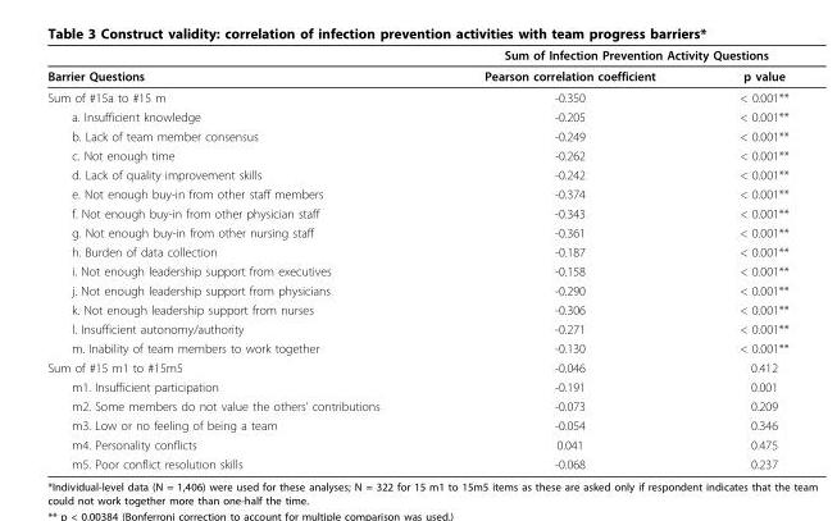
<table><thead><tr><td rowspan="2">Barrier Questions</td><td colspan="2">Sum of Infection Prevention Activity Questions</td></tr><tr><td>Pearson correlation coefficient</td><td>p value</td></tr></thead><tbody><tr><td>Sum of #15a to #15 m</td><td>-0.350</td><td>&lt; 0.001**</td></tr><tr><td>a. Insufficient knowledge</td><td>-0.205</td><td>&lt; 0.001**</td></tr><tr><td>b. Lack of team member consensus</td><td>-0.249</td><td>&lt; 0.001**</td></tr><tr><td>c. Not enough time</td><td>-0.262</td><td>&lt; 0.001**</td></tr><tr><td>d. Lack of quality improvement skills</td><td>-0.242</td><td>&lt; 0.001**</td></tr><tr><td>e. Not enough buy-in from other staff members</td><td>-0.374</td><td>&lt; 0.001**</td></tr><tr><td>f. Not enough buy-in from other physician staff</td><td>-0.343</td><td>&lt; 0.001**</td></tr><tr><td>g. Not enough buy-in from other nursing staff</td><td>-0.361</td><td>&lt; 0.001**</td></tr><tr><td>h. Burden of data collection</td><td>-0.187</td><td>&lt; 0.001**</td></tr><tr><td>i. Not enough leadership support from executives</td><td>-0.158</td><td>&lt; 0.001**</td></tr><tr><td>j. Not enough leadership support from physicians</td><td>-0.290</td><td>&lt; 0.001**</td></tr><tr><td>k. Not enough leadership support from nurses</td><td>-0.306</td><td>&lt; 0.001**</td></tr><tr><td>l. Insufficient autonomy/authority</td><td>-0.271</td><td>&lt; 0.001**</td></tr><tr><td>m. Inability of team members to work together</td><td>-0.130</td><td>&lt; 0.001**</td></tr><tr><td>Sum of #15 m1 to #15m5</td><td>-0.046</td><td>0.412</td></tr><tr><td>m1. Insufficient participation</td><td>-0.191</td><td>0.001</td></tr><tr><td>m2. Some members do not value the others’ contributions</td><td>-0.073</td><td>0.209</td></tr><tr><td>m3. Low or no feeling of being a team</td><td>-0.054</td><td>0.346</td></tr><tr><td>m4. Personality conflicts</td><td>0.041</td><td>0.475</td></tr><tr><td>m5. Poor conflict resolution skills</td><td>-0.068</td><td>0.237</td></tr></tbody></table>